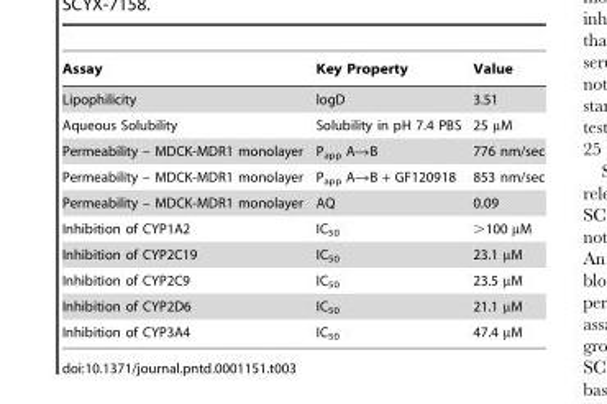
<table><thead><tr><td>Assay</td><td>Key Property</td><td>Value</td></tr></thead><tbody><tr><td>Lipophilicity</td><td>logD</td><td>3.51</td></tr><tr><td>Aqueous Solubility</td><td>Solubility in pH 7.4 PBS</td><td>25 µM</td></tr><tr><td>Permeability – MDCK-MDR1 monolayer</td><td>P<sub>app</sub> A→B</td><td>776 nm/sec</td></tr><tr><td>Permeability – MDCK-MDR1 monolayer</td><td>P<sub>app</sub> A→B + GF120918</td><td>853 nm/sec</td></tr><tr><td>Permeability – MDCK-MDR1 monolayer</td><td>AQ</td><td>0.09</td></tr><tr><td>Inhibition of CYP1A2</td><td>IC<sub>50</sub></td><td>&gt;100 µM</td></tr><tr><td>Inhibition of CYP2C19</td><td>IC<sub>50</sub></td><td>23.1 µM</td></tr><tr><td>Inhibition of CYP2C9</td><td>IC<sub>50</sub></td><td>23.5 µM</td></tr><tr><td>Inhibition of CYP2D6</td><td>IC<sub>50</sub></td><td>21.1 µM</td></tr><tr><td>Inhibition of CYP3A4</td><td>IC<sub>50</sub></td><td>47.4 µM</td></tr></tbody></table>